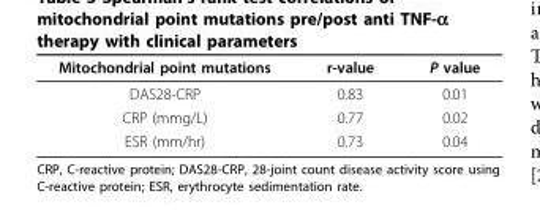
<table><thead><tr><td>Mitochondrial point mutations</td><td>r-value</td><td>P value</td></tr></thead><tbody><tr><td>DAS28-CRP</td><td>0.83</td><td>0.01</td></tr><tr><td>CRP (mmg/L)</td><td>0.77</td><td>0.02</td></tr><tr><td>ESR (mm/hr)</td><td>0.73</td><td>0.04</td></tr></tbody></table>